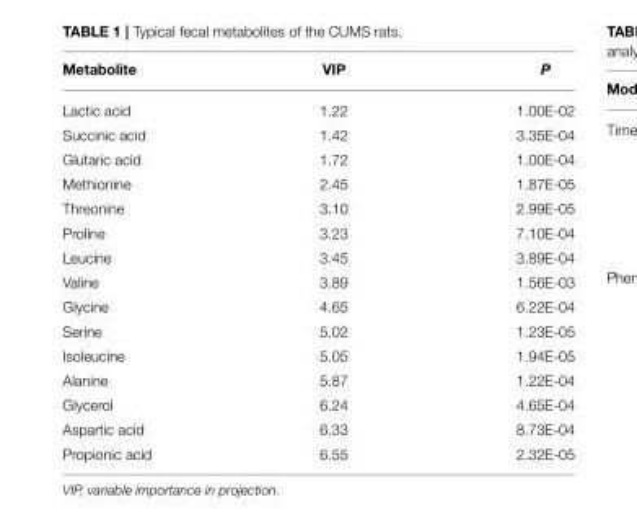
<table><thead><tr><td>Metabolite</td><td>VIP</td><td>P</td></tr></thead><tbody><tr><td>Lactic acid</td><td>1.22</td><td>1.00E-02</td></tr><tr><td>Succinic acid</td><td>1.42</td><td>3.35E-04</td></tr><tr><td>Glutaric acid</td><td>1.72</td><td>1.00E-04</td></tr><tr><td>Methionine</td><td>2.45</td><td>1.87E-05</td></tr><tr><td>Threonine</td><td>3.10</td><td>2.99E-05</td></tr><tr><td>Proline</td><td>3.23</td><td>7.10E-04</td></tr><tr><td>Leucine</td><td>3.45</td><td>3.89E-04</td></tr><tr><td>Valine</td><td>3.89</td><td>1.56E-03</td></tr><tr><td>Glycine</td><td>4.65</td><td>6.22E-04</td></tr><tr><td>Serine</td><td>5.02</td><td>1.23E-05</td></tr><tr><td>Isoleucine</td><td>5.05</td><td>1.94E-05</td></tr><tr><td>Alanine</td><td>5.87</td><td>1.22E-04</td></tr><tr><td>Glycerol</td><td>6.24</td><td>4.65E-04</td></tr><tr><td>Aspartic acid</td><td>6.33</td><td>8.73E-04</td></tr><tr><td>Propionic acid</td><td>6.55</td><td>2.32E-05</td></tr></tbody></table>